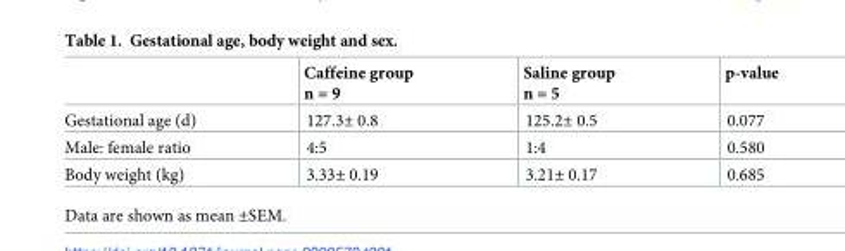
<table><thead><tr><td></td><td>Caffeine group n = 9</td><td>Saline group n = 5</td><td>p-value</td></tr></thead><tbody><tr><td>Gestational age (d)</td><td>127.3± 0.8</td><td>125.2± 0.5</td><td>0.077</td></tr><tr><td>Male: female ratio</td><td>4:5</td><td>1:4</td><td>0.580</td></tr><tr><td>Body weight (kg)</td><td>3.33± 0.19</td><td>3.21± 0.17</td><td>0.685</td></tr></tbody></table>